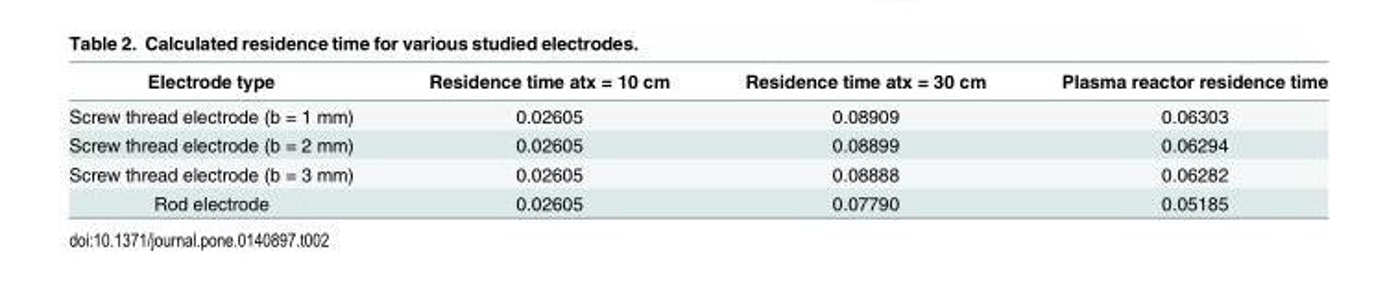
<table><thead><tr><td>Electrode type</td><td>Residence time atx = 10 cm</td><td>Residence time atx = 30 cm</td><td>Plasma reactor residence time</td></tr></thead><tbody><tr><td>Screw thread electrode (b = 1 mm)</td><td>0.02605</td><td>0.08909</td><td>0.06303</td></tr><tr><td>Screw thread electrode (b = 2 mm)</td><td>0.02605</td><td>0.08899</td><td>0.06294</td></tr><tr><td>Screw thread electrode (b = 3 mm)</td><td>0.02605</td><td>0.08888</td><td>0.06282</td></tr><tr><td>Rod electrode</td><td>0.02605</td><td>0.07790</td><td>0.05185</td></tr></tbody></table>